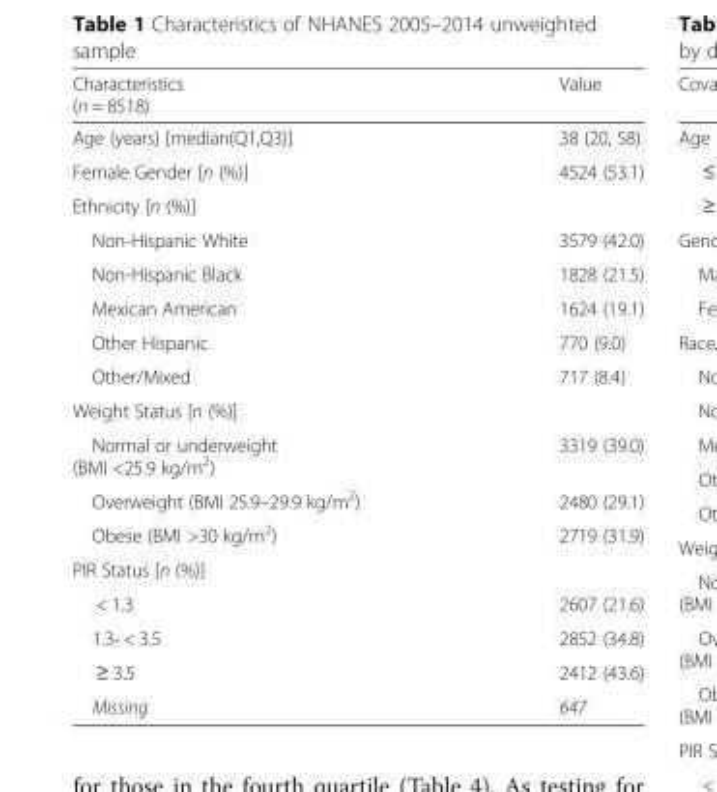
<table><thead><tr><td>Characteristics (n = 8518)</td><td>Value</td></tr></thead><tbody><tr><td>Age (years) [median(Q1,Q3)]</td><td>38 (20, 58)</td></tr><tr><td>Female Gender [n (%)]</td><td>4524 (53.1)</td></tr><tr><td colspan="2">Ethnicity [n (%)]</td></tr><tr><td>Non-Hispanic White</td><td>3579 (42.0)</td></tr><tr><td>Non-Hispanic Black</td><td>1828 (21.5)</td></tr><tr><td>Mexican American</td><td>1624 (19.1)</td></tr><tr><td>Other Hispanic</td><td>770 (9.0)</td></tr><tr><td>Other/Mixed</td><td>717 (8.4)</td></tr><tr><td colspan="2">Weight Status [n (%)]</td></tr><tr><td>Normal or underweight (BMI &lt;25.9 kg/m<sup>2</sup>)</td><td>3319 (39.0)</td></tr><tr><td>Overweight (BMI 25.9–29.9 kg/m<sup>2</sup>)</td><td>2480 (29.1)</td></tr><tr><td>Obese (BMI &gt;30 kg/m<sup>2</sup>)</td><td>2719 (31.9)</td></tr><tr><td colspan="2">PIR Status [n (%)]</td></tr><tr><td>&lt; 1.3</td><td>2607 (21.6)</td></tr><tr><td>1.3- &lt; 3.5</td><td>2852 (34.8)</td></tr><tr><td>≥ 3.5</td><td>2412 (43.6)</td></tr><tr><td>Missing</td><td>647</td></tr></tbody></table>